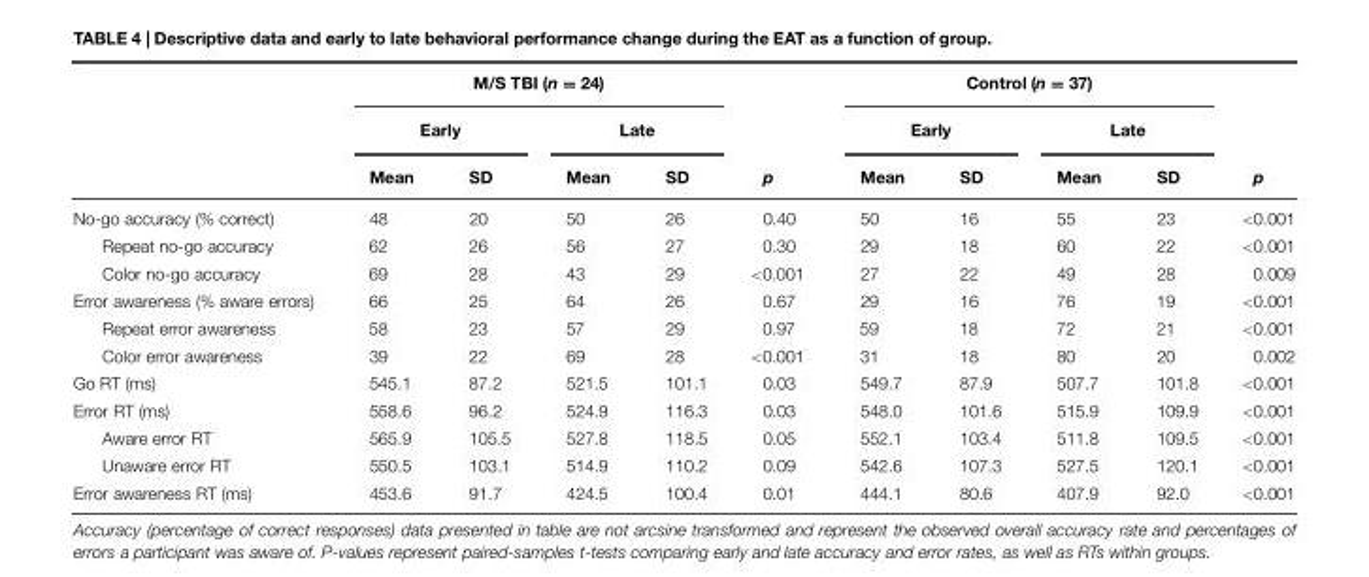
<table><thead><tr><td rowspan="3"></td><td colspan="4">M/S TBI (n = 24)</td><td rowspan="3">p</td><td colspan="4">Control (n = 37)</td><td rowspan="3">p</td></tr><tr><td colspan="2">Early</td><td colspan="2">Late</td><td colspan="2">Early</td><td colspan="2">Late</td></tr><tr><td>Mean</td><td>SD</td><td>Mean</td><td>SD</td><td>Mean</td><td>SD</td><td>Mean</td><td>SD</td></tr></thead><tbody><tr><td>No-go accuracy (% correct)</td><td>48</td><td>20</td><td>50</td><td>26</td><td>0.40</td><td>50</td><td>16</td><td>55</td><td>23</td><td>&lt;0.001</td></tr><tr><td>Repeat no-go accuracy</td><td>62</td><td>26</td><td>56</td><td>27</td><td>0.30</td><td>29</td><td>18</td><td>60</td><td>22</td><td>&lt;0.001</td></tr><tr><td>Color no-go accuracy</td><td>69</td><td>28</td><td>43</td><td>29</td><td>&lt;0.001</td><td>27</td><td>22</td><td>49</td><td>28</td><td>0.009</td></tr><tr><td>Error awareness (% aware errors)</td><td>66</td><td>25</td><td>64</td><td>26</td><td>0.67</td><td>29</td><td>16</td><td>76</td><td>19</td><td>&lt;0.001</td></tr><tr><td>Repeat error awareness</td><td>58</td><td>23</td><td>57</td><td>29</td><td>0.97</td><td>59</td><td>18</td><td>72</td><td>21</td><td>&lt;0.001</td></tr><tr><td>Color error awareness</td><td>39</td><td>22</td><td>69</td><td>28</td><td>&lt;0.001</td><td>31</td><td>18</td><td>80</td><td>20</td><td>0.002</td></tr><tr><td>Go RT (ms)</td><td>545.1</td><td>87.2</td><td>521.5</td><td>101.1</td><td>0.03</td><td>549.7</td><td>87.9</td><td>507.7</td><td>101.8</td><td>&lt;0.001</td></tr><tr><td>Error RT (ms)</td><td>558.6</td><td>96.2</td><td>524.9</td><td>116.3</td><td>0.03</td><td>548.0</td><td>101.6</td><td>515.9</td><td>109.9</td><td>&lt;0.001</td></tr><tr><td>Aware error RT</td><td>565.9</td><td>105.5</td><td>527.8</td><td>118.5</td><td>0.05</td><td>552.1</td><td>103.4</td><td>511.8</td><td>109.5</td><td>&lt;0.001</td></tr><tr><td>Unaware error RT</td><td>550.5</td><td>103.1</td><td>514.9</td><td>110.2</td><td>0.09</td><td>542.6</td><td>107.3</td><td>527.5</td><td>120.1</td><td>&lt;0.001</td></tr><tr><td>Error awareness RT (ms)</td><td>453.6</td><td>91.7</td><td>424.5</td><td>100.4</td><td>0.01</td><td>444.1</td><td>80.6</td><td>407.9</td><td>92.0</td><td>&lt;0.001</td></tr></tbody></table>